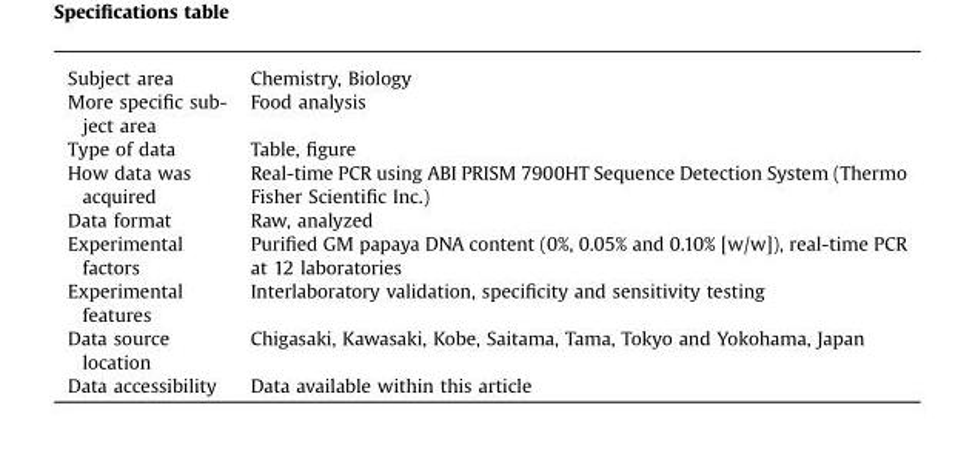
<table><thead><tr><td>Subject area</td><td>Chemistry, Biology</td></tr></thead><tbody><tr><td>More specific sub- ject area</td><td>Food analysis</td></tr><tr><td>Type of data</td><td>Table, figure</td></tr><tr><td>How data was acquired</td><td>Real-time PCR using ABI PRISM 7900HT Sequence Detection System (Thermo Fisher Scientific Inc.)</td></tr><tr><td>Data format</td><td>Raw, analyzed</td></tr><tr><td>Experimental factors</td><td>Purified GM papaya DNA content (0%, 0.05% and 0.10% [w/w]), real-time PCR at 12 laboratories</td></tr><tr><td>Experimental features</td><td>Interlaboratory validation, specificity and sensitivity testing</td></tr><tr><td>Data source location</td><td>Chigasaki, Kawasaki, Kobe, Saitama, Tama, Tokyo and Yokohama, Japan</td></tr><tr><td>Data accessibility</td><td>Data available within this article</td></tr></tbody></table>